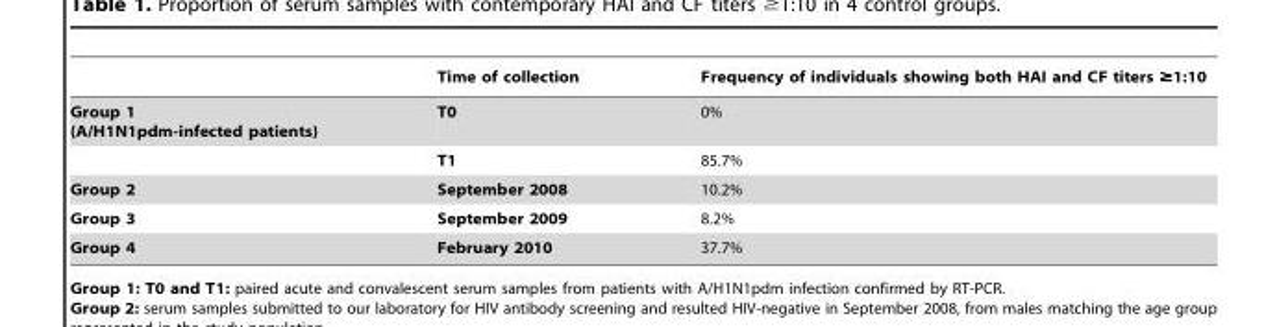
<table><thead><tr><td></td><td>Time of collection</td><td>Frequency of individuals showing both HAI and CF titers ≥1:10</td></tr></thead><tbody><tr><td rowspan="2">Group 1 (A/H1N1pdm-infected patients)</td><td>T0</td><td>0%</td></tr><tr><td>T1</td><td>85.7%</td></tr><tr><td>Group 2</td><td>September 2008</td><td>10.2%</td></tr><tr><td>Group 3</td><td>September 2009</td><td>8.2%</td></tr><tr><td>Group 4</td><td>February 2010</td><td>37.7%</td></tr></tbody></table>